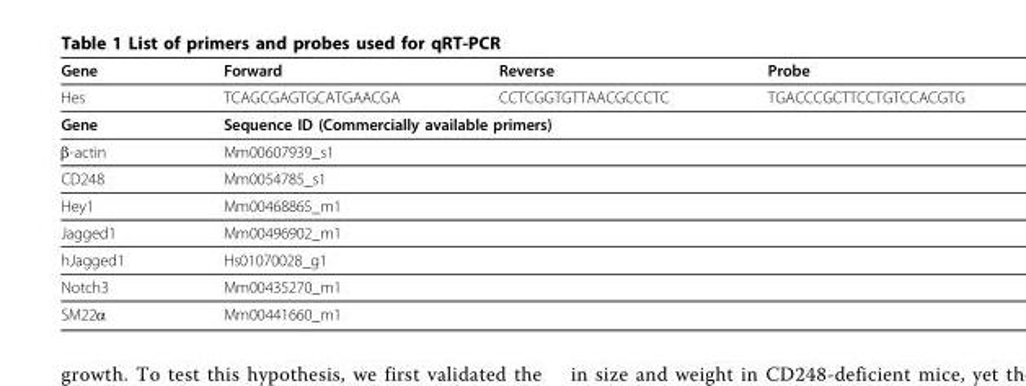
<table><thead><tr><td>Gene</td><td>Forward</td><td>Reverse</td><td>Probe</td></tr></thead><tbody><tr><td>Hes</td><td>TCAGCGAGTGCATGAACGA</td><td>CCTCGGTGTTAACGCCCTC</td><td>TGACCCGCTTCCTGTCCACGTG</td></tr><tr><td>Gene</td><td colspan="3">Sequence ID (Commercially available primers)</td></tr><tr><td>β-actin</td><td colspan="3">Mm00607939_s1</td></tr><tr><td>CD248</td><td colspan="3">Mm0054785_s1</td></tr><tr><td>Hey1</td><td colspan="3">Mm00468865_m1</td></tr><tr><td>Jagged1</td><td colspan="3">Mm00496902_m1</td></tr><tr><td>hJagged1</td><td colspan="3">Hs01070028_g1</td></tr><tr><td>Notch3</td><td colspan="3">Mm00435270_m1</td></tr><tr><td>SM22α</td><td colspan="3">Mm00441660_m1</td></tr></tbody></table>